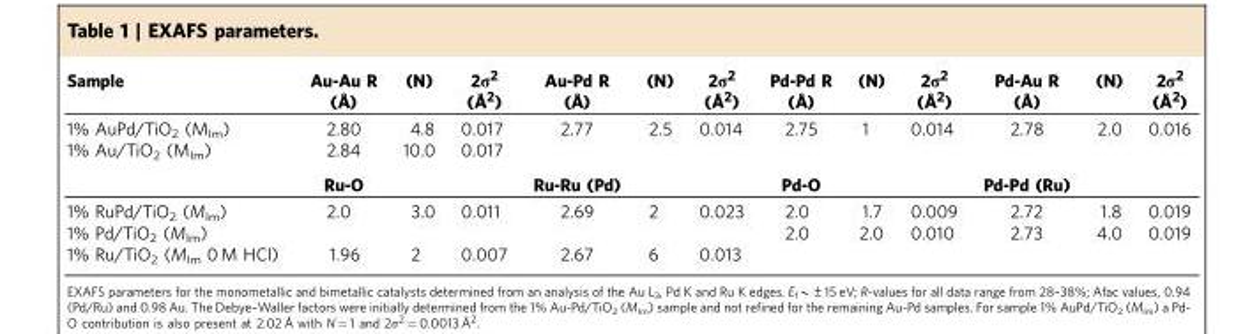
<table><thead><tr><td>Sample</td><td>Au-Au R (Å)</td><td>(N)</td><td>2σ<sup>2</sup> (Å<sup>2</sup>)</td><td>Au-Pd R (Å)</td><td>(N)</td><td>2σ<sup>2</sup> (Å<sup>2</sup>)</td><td>Pd-Pd R (Å)</td><td>(N)</td><td>2σ<sup>2</sup> (Å<sup>2</sup>)</td><td>Pd-Au R (Å)</td><td>(N)</td><td>2σ<sup>2</sup> (Å<sup>2</sup>)</td></tr></thead><tbody><tr><td>1% AuPd/TiO<sub>2</sub> (M<sub>Im</sub>)</td><td>2.80</td><td>4.8</td><td>0.017</td><td>2.77</td><td>2.5</td><td>0.014</td><td>2.75</td><td>1</td><td>0.014</td><td>2.78</td><td>2.0</td><td>0.016</td></tr><tr><td rowspan="2">1% Au/TiO<sub>2</sub> (M<sub>Im</sub>)</td><td>2.84</td><td>10.0</td><td>0.017</td><td></td><td></td><td></td><td></td><td></td><td></td><td></td><td></td><td></td></tr><tr><td>Ru-O</td><td></td><td></td><td>Ru-Ru (Pd)</td><td></td><td></td><td>Pd-O</td><td></td><td></td><td>Pd-Pd (Ru)</td><td></td><td></td></tr><tr><td>1% RuPd/TiO<sub>2</sub> (M<sub>Im</sub>)</td><td>2.0</td><td>3.0</td><td>0.011</td><td>2.69</td><td>2</td><td>0.023</td><td>2.0</td><td>1.7</td><td>0.009</td><td>2.72</td><td>1.8</td><td>0.019</td></tr><tr><td>1% Pd/TiO<sub>2</sub> (M<sub>Im</sub>)</td><td></td><td></td><td></td><td></td><td></td><td></td><td>2.0</td><td>2.0</td><td>0.010</td><td>2.73</td><td>4.0</td><td>0.019</td></tr><tr><td>1% Ru/TiO<sub>2</sub> (M<sub>Im</sub> 0 M HCl)</td><td>1.96</td><td>2</td><td>0.007</td><td>2.67</td><td>6</td><td>0.013</td><td></td><td></td><td></td><td></td><td></td><td></td></tr></tbody></table>